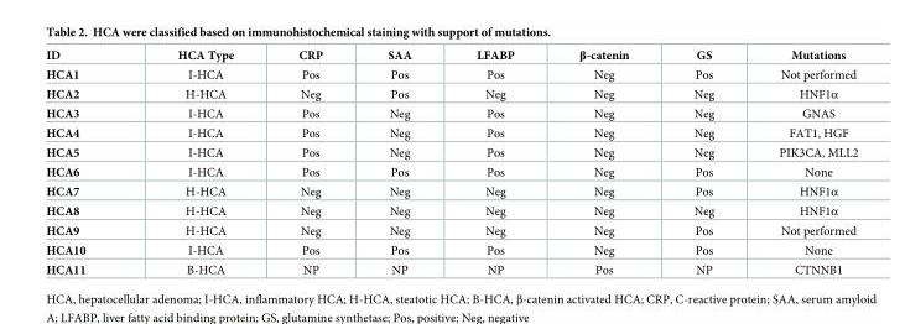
<table><thead><tr><td>ID</td><td>HCA Type</td><td>CRP</td><td>SAA</td><td>LFABP</td><td>β-catenin</td><td>GS</td><td>Mutations</td></tr></thead><tbody><tr><td>HCA1</td><td>I-HCA</td><td>Pos</td><td>Pos</td><td>Pos</td><td>Neg</td><td>Pos</td><td>Not performed</td></tr><tr><td>HCA2</td><td>H-HCA</td><td>Neg</td><td>Pos</td><td>Neg</td><td>Neg</td><td>Neg</td><td>HNF1α</td></tr><tr><td>HCA3</td><td>I-HCA</td><td>Pos</td><td>Neg</td><td>Pos</td><td>Neg</td><td>Neg</td><td>GNAS</td></tr><tr><td>HCA4</td><td>I-HCA</td><td>Pos</td><td>Neg</td><td>Pos</td><td>Neg</td><td>Neg</td><td>FAT1, HGF</td></tr><tr><td>HCA5</td><td>I-HCA</td><td>Pos</td><td>Neg</td><td>Pos</td><td>Neg</td><td>Neg</td><td>PIK3CA, MLL2</td></tr><tr><td>HCA6</td><td>I-HCA</td><td>Pos</td><td>Pos</td><td>Pos</td><td>Neg</td><td>Pos</td><td>None</td></tr><tr><td>HCA7</td><td>H-HCA</td><td>Neg</td><td>Neg</td><td>Neg</td><td>Neg</td><td>Pos</td><td>HNF1α</td></tr><tr><td>HCA8</td><td>H-HCA</td><td>Neg</td><td>Neg</td><td>Neg</td><td>Neg</td><td>Neg</td><td>HNF1α</td></tr><tr><td>HCA9</td><td>H-HCA</td><td>Neg</td><td>Neg</td><td>Neg</td><td>Neg</td><td>Pos</td><td>Not performed</td></tr><tr><td>HCA10</td><td>I-HCA</td><td>Pos</td><td>Pos</td><td>Pos</td><td>Neg</td><td>Pos</td><td>None</td></tr><tr><td>HCA11</td><td>B-HCA</td><td>NP</td><td>NP</td><td>NP</td><td>Pos</td><td>NP</td><td>CTNNB1</td></tr></tbody></table>